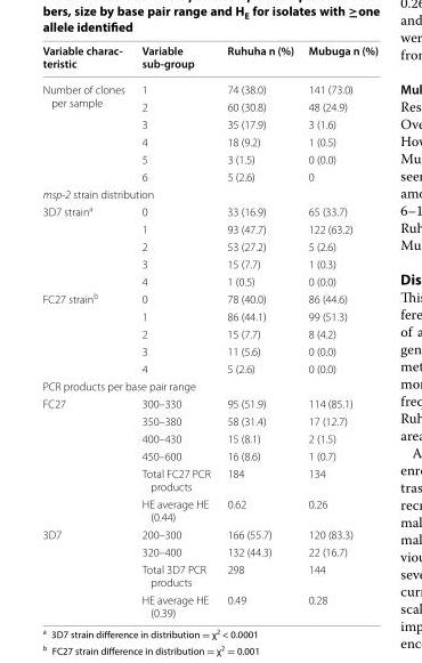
<table><thead><tr><td>Variable charac‑ teristic</td><td>Variable sub‑group</td><td>Ruhuha n (%)</td><td>Mubuga n (%)</td></tr></thead><tbody><tr><td rowspan="6">Number of clones per sample</td><td>1</td><td>74 (38.0)</td><td>141 (73.0)</td></tr><tr><td>2</td><td>60 (30.8)</td><td>48 (24.9)</td></tr><tr><td>3</td><td>35 (17.9)</td><td>3 (1.6)</td></tr><tr><td>4</td><td>18 (9.2)</td><td>1 (0.5)</td></tr><tr><td>5</td><td>3 (1.5)</td><td>0 (0.0)</td></tr><tr><td>6</td><td>5 (2.6)</td><td>0</td></tr><tr><td colspan="4">msp-2 strain distribution</td></tr><tr><td rowspan="5">3D7 strain<sup>a</sup></td><td>0</td><td>33 (16.9)</td><td>65 (33.7)</td></tr><tr><td>1</td><td>93 (47.7)</td><td>122 (63.2)</td></tr><tr><td>2</td><td>53 (27.2)</td><td>5 (2.6)</td></tr><tr><td>3</td><td>15 (7.7)</td><td>1 (0.3)</td></tr><tr><td>4</td><td>1 (0.5)</td><td>0 (0.0)</td></tr><tr><td rowspan="5">FC27 strain<sup>b</sup></td><td>0</td><td>78 (40.0)</td><td>86 (44.6)</td></tr><tr><td>1</td><td>86 (44.1)</td><td>99 (51.3)</td></tr><tr><td>2</td><td>15 (7.7)</td><td>8 (4.2)</td></tr><tr><td>3</td><td>11 (5.6)</td><td>0 (0.0)</td></tr><tr><td>4</td><td>5 (2.6)</td><td>0 (0.0)</td></tr><tr><td colspan="4">PCR products per base pair range</td></tr><tr><td rowspan="6">FC27</td><td>300–330</td><td>95 (51.9)</td><td>114 (85.1)</td></tr><tr><td>350–380</td><td>58 (31.4)</td><td>17 (12.7)</td></tr><tr><td>400–430</td><td>15 (8.1)</td><td>2 (1.5)</td></tr><tr><td>450–600</td><td>16 (8.6)</td><td>1 (0.7)</td></tr><tr><td>Total FC27 PCR products</td><td>184</td><td>134</td></tr><tr><td>HE average HE (0.44)</td><td>0.62</td><td>0.26</td></tr><tr><td rowspan="4">3D7</td><td>200–300</td><td>166 (55.7)</td><td>120 (83.3)</td></tr><tr><td>320–400</td><td>132 (44.3)</td><td>22 (16.7)</td></tr><tr><td>Total 3D7 PCR products</td><td>298</td><td>144</td></tr><tr><td>HE average HE (0.39)</td><td>0.49</td><td>0.28</td></tr></tbody></table>